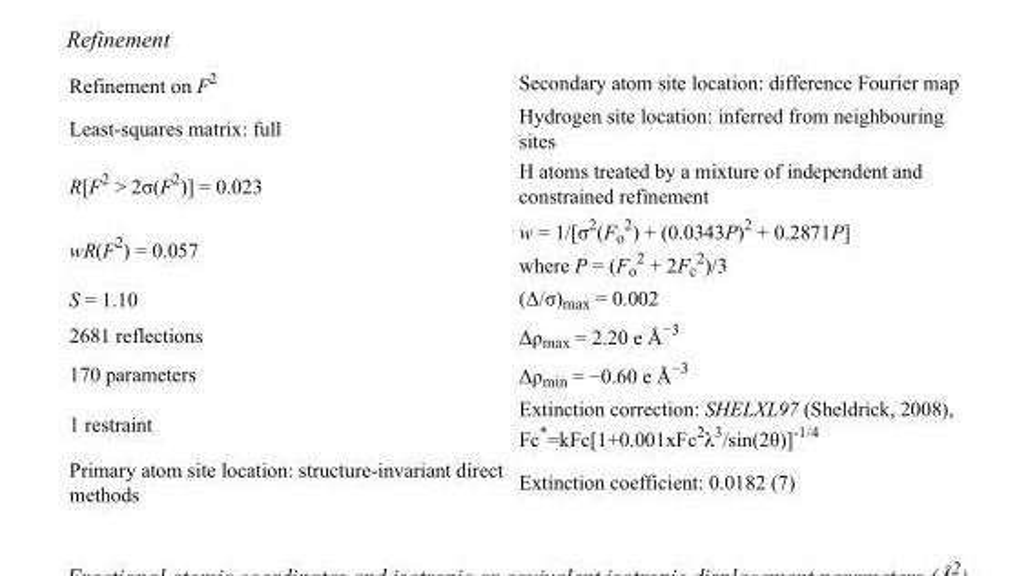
<table><tbody><tr><td>Refinement on F<sup>2</sup></td><td>Secondary atom site location: difference Fourier map</td></tr><tr><td>Least-squares matrix: full</td><td>Hydrogen site location: inferred from neighbouring sites</td></tr><tr><td>R[F<sup>2</sup> &gt; 2σ(F<sup>2</sup>)] = 0.023</td><td>H atoms treated by a mixture of independent and constrained refinement</td></tr><tr><td>wR(F<sup>2</sup>) = 0.057</td><td>w = 1/[σ<sup>2</sup>(F<sub>o</sub> <sup>2</sup>) + (0.0343P)<sup>2</sup> + 0.2871P] where P = (F<sub>o</sub> <sup>2</sup> + 2F<sub>c</sub> <sup>2</sup>)/3</td></tr><tr><td>S = 1.10</td><td>(Δ/σ)<sub>max</sub> = 0.002</td></tr><tr><td>2681 reflections</td><td>Δρ<sub>max</sub> = 2.20 e Å<sup>−3</sup></td></tr><tr><td>170 parameters</td><td>Δρ<sub>min</sub> = −0.60 e Å<sup>−3</sup></td></tr><tr><td>1 restraint</td><td>Extinction correction: SHELXL97 (Sheldrick, 2008), Fc*=kFc[1+0.001xFc<sup>2</sup>λ<sup>3</sup>/sin(2θ)]<sup>-1/4</sup></td></tr><tr><td>Primary atom site location: structure-invariant direct methods</td><td>Extinction coefficient: 0.0182 (7)</td></tr></tbody></table>